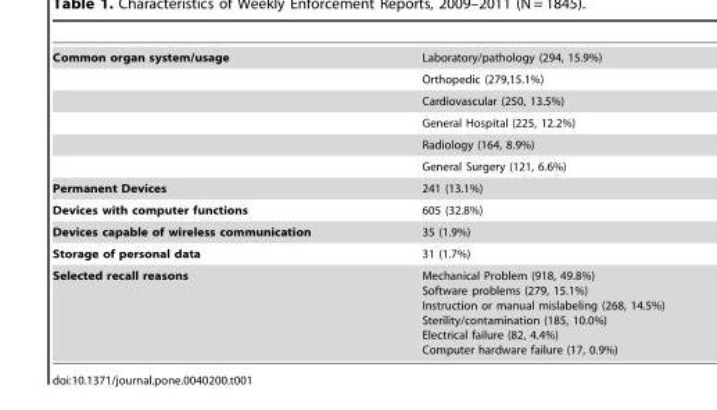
<table><tbody><tr><td rowspan="6">Common organ system/usage</td><td>Laboratory/pathology (294, 15.9%)</td></tr><tr><td>Orthopedic (279,15.1%)</td></tr><tr><td>Cardiovascular (250, 13.5%)</td></tr><tr><td>General Hospital (225, 12.2%)</td></tr><tr><td>Radiology (164, 8.9%)</td></tr><tr><td>General Surgery (121, 6.6%)</td></tr><tr><td>Permanent Devices</td><td>241 (13.1%)</td></tr><tr><td>Devices with computer functions</td><td>605 (32.8%)</td></tr><tr><td>Devices capable of wireless communication</td><td>35 (1.9%)</td></tr><tr><td>Storage of personal data</td><td>31 (1.7%)</td></tr><tr><td>Selected recall reasons</td><td>Mechanical Problem (918, 49.8%) Software problems (279, 15.1%) Instruction or manual mislabeling (268, 14.5%) Sterility/contamination (185, 10.0%) Electrical failure (82, 4.4%) Computer hardware failure (17, 0.9%)</td></tr></tbody></table>